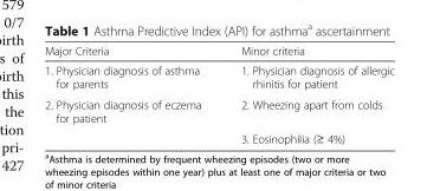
<table><thead><tr><td>Major Criteria</td><td>Minor criteria</td></tr></thead><tbody><tr><td>1. Physician diagnosis of asthma for parents</td><td>1. Physician diagnosis of allergic rhinitis for patient</td></tr><tr><td rowspan="2">2. Physician diagnosis of eczema for patient</td><td>2. Wheezing apart from colds</td></tr><tr><td>3. Eosinophilia (≥ 4%)</td></tr></tbody></table>